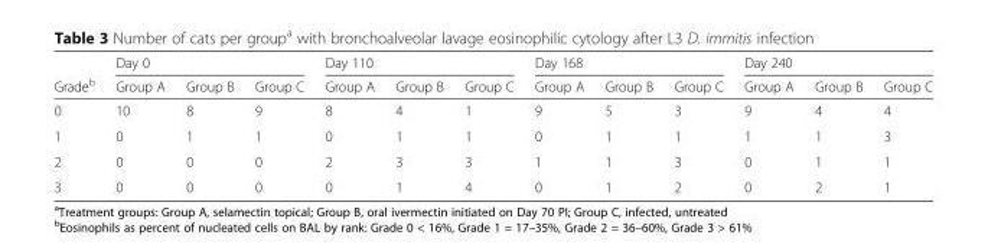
<table><thead><tr><td rowspan="2">Grade<sup>b</sup></td><td colspan="3">Day 0</td><td colspan="3">Day 110</td><td colspan="3">Day 168</td><td colspan="3">Day 240</td></tr><tr><td>Group A</td><td>Group B</td><td>Group C</td><td>Group A</td><td>Group B</td><td>Group C</td><td>Group A</td><td>Group B</td><td>Group C</td><td>Group A</td><td>Group B</td><td>Group C</td></tr></thead><tbody><tr><td>0</td><td>10</td><td>8</td><td>9</td><td>8</td><td>4</td><td>1</td><td>9</td><td>5</td><td>3</td><td>9</td><td>4</td><td>4</td></tr><tr><td>1</td><td>0</td><td>1</td><td>1</td><td>0</td><td>1</td><td>1</td><td>0</td><td>1</td><td>1</td><td>1</td><td>1</td><td>3</td></tr><tr><td>2</td><td>0</td><td>0</td><td>0</td><td>2</td><td>3</td><td>3</td><td>1</td><td>1</td><td>3</td><td>0</td><td>1</td><td>1</td></tr><tr><td>3</td><td>0</td><td>0</td><td>0</td><td>0</td><td>1</td><td>4</td><td>0</td><td>1</td><td>2</td><td>0</td><td>2</td><td>1</td></tr></tbody></table>